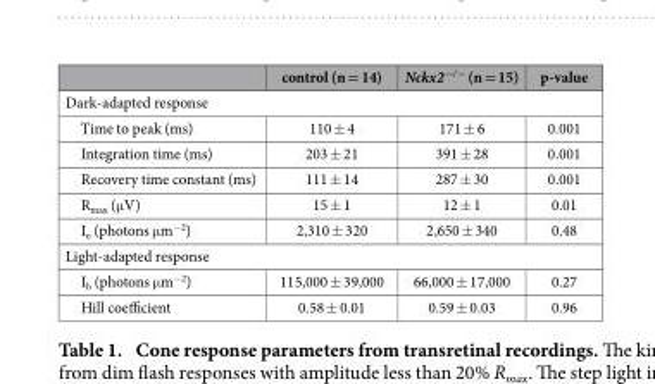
<table><thead><tr><td></td><td>control (n = 14)</td><td>Nckx2<sup>−/−</sup> (n = 15)</td><td>p-value</td></tr></thead><tbody><tr><td colspan="4">Dark-adapted response</td></tr><tr><td>Time to peak (ms)</td><td>110 ± 4</td><td>171 ± 6</td><td>0.001</td></tr><tr><td>Integration time (ms)</td><td>203 ± 21</td><td>391 ± 28</td><td>0.001</td></tr><tr><td>Recovery time constant (ms)</td><td>111 ± 14</td><td>287 ± 30</td><td>0.001</td></tr><tr><td>R<sub>max</sub> (μ V)</td><td>15 ± 1</td><td>12 ± 1</td><td>0.01</td></tr><tr><td>I<sub>o</sub> (photons μ m<sup>−2</sup>)</td><td>2,310 ± 320</td><td>2,650 ± 340</td><td>0.48</td></tr><tr><td colspan="4">Light-adapted response</td></tr><tr><td>I<sub>b</sub> (photons μ m<sup>−2</sup>)</td><td>115,000 ± 39,000</td><td>66,000 ± 17,000</td><td>0.27</td></tr><tr><td>Hill coefficient</td><td>0.58 ± 0.01</td><td>0.59 ± 0.03</td><td>0.96</td></tr></tbody></table>